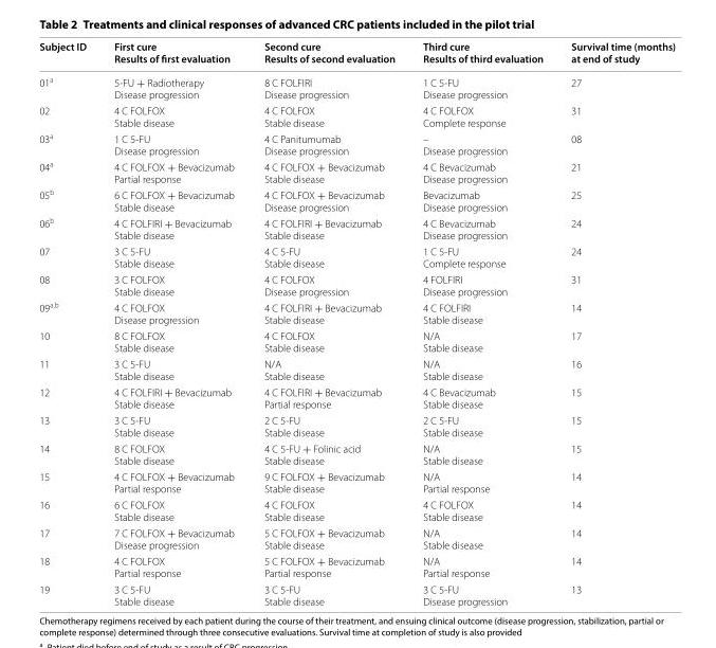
<table><thead><tr><td>Subject ID</td><td>First cure Results of first evaluation</td><td>Second cure Results of second evaluation</td><td>Third cure Results of third evaluation</td><td>Survival time (months) at end of study</td></tr></thead><tbody><tr><td>01<sup>a</sup></td><td>5‑FU + Radiotherapy Disease progression</td><td>8 C FOLFIRI Disease progression</td><td>1 C 5‑FU Disease progression</td><td>27</td></tr><tr><td>02</td><td>4 C FOLFOX Stable disease</td><td>4 C FOLFOX Stable disease</td><td>4 C FOLFOX Complete response</td><td>31</td></tr><tr><td>03<sup>a</sup></td><td>1 C 5‑FU Disease progression</td><td>4 C Panitumumab Disease progression</td><td>– Disease progression</td><td>08</td></tr><tr><td>04<sup>a</sup></td><td>4 C FOLFOX + Bevacizumab Partial response</td><td>4 C FOLFOX + Bevacizumab Stable disease</td><td>4 C Bevacizumab Disease progression</td><td>21</td></tr><tr><td>05<sup>b</sup></td><td>6 C FOLFOX + Bevacizumab Stable disease</td><td>4 C FOLFOX + Bevacizumab Disease progression</td><td>Bevacizumab Disease progression</td><td>25</td></tr><tr><td>06<sup>b</sup></td><td>4 C FOLFIRI + Bevacizumab Stable disease</td><td>4 C FOLFIRI + Bevacizumab Stable disease</td><td>4 C Bevacizumab Disease progression</td><td>24</td></tr><tr><td>07</td><td>3 C 5‑FU Stable disease</td><td>4 C 5‑FU Stable disease</td><td>1 C 5‑FU Complete response</td><td>24</td></tr><tr><td>08</td><td>3 C FOLFOX Stable disease</td><td>4 C FOLFOX Disease progression</td><td>4 FOLFIRI Disease progression</td><td>31</td></tr><tr><td>09<sup>a,b</sup></td><td>4 C FOLFOX Disease progression</td><td>4 C FOLFIRI + Bevacizumab Stable disease</td><td>4 C FOLFIRI Stable disease</td><td>14</td></tr><tr><td>10</td><td>8 C FOLFOX Stable disease</td><td>4 C FOLFOX Stable disease</td><td>N/A Stable disease</td><td>17</td></tr><tr><td>11</td><td>3 C 5‑FU Stable disease</td><td>N/A Stable disease</td><td>N/A Stable disease</td><td>16</td></tr><tr><td>12</td><td>4 C FOLFIRI + Bevacizumab Stable disease</td><td>4 C FOLFIRI + Bevacizumab Partial response</td><td>4 C Bevacizumab Stable disease</td><td>15</td></tr><tr><td>13</td><td>3 C 5‑FU Stable disease</td><td>2 C 5‑FU Stable disease</td><td>2 C 5‑FU Stable disease</td><td>15</td></tr><tr><td>14</td><td>8 C FOLFOX Stable disease</td><td>4 C 5‑FU + Folinic acid Stable disease</td><td>N/A Stable disease</td><td>15</td></tr><tr><td>15</td><td>4 C FOLFOX + Bevacizumab Partial response</td><td>9 C FOLFOX + Bevacizumab Stable disease</td><td>N/A Partial response</td><td>14</td></tr><tr><td>16</td><td>6 C FOLFOX Stable disease</td><td>4 C FOLFOX Stable disease</td><td>4 C FOLFOX Stable disease</td><td>14</td></tr><tr><td>17</td><td>7 C FOLFOX + Bevacizumab Disease progression</td><td>5 C FOLFOX + Bevacizumab Stable disease</td><td>N/A Stable disease</td><td>14</td></tr><tr><td>18</td><td>4 C FOLFOX Partial response</td><td>5 C FOLFOX + Bevacizumab Partial response</td><td>N/A Partial response</td><td>14</td></tr><tr><td>19</td><td>3 C 5‑FU Stable disease</td><td>3 C 5‑FU Stable disease</td><td>3 C 5‑FU Disease progression</td><td>13</td></tr></tbody></table>